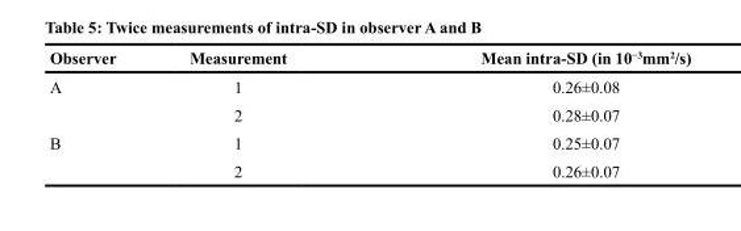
<table><thead><tr><td>Observer</td><td>Measurement</td><td>Mean intra-SD (in 10<sup>−3</sup>mm<sup>2</sup>/s)</td></tr></thead><tbody><tr><td rowspan="2">A</td><td>1</td><td>0.26±0.08</td></tr><tr><td>2</td><td>0.28±0.07</td></tr><tr><td rowspan="2">B</td><td>1</td><td>0.25±0.07</td></tr><tr><td>2</td><td>0.26±0.07</td></tr></tbody></table>